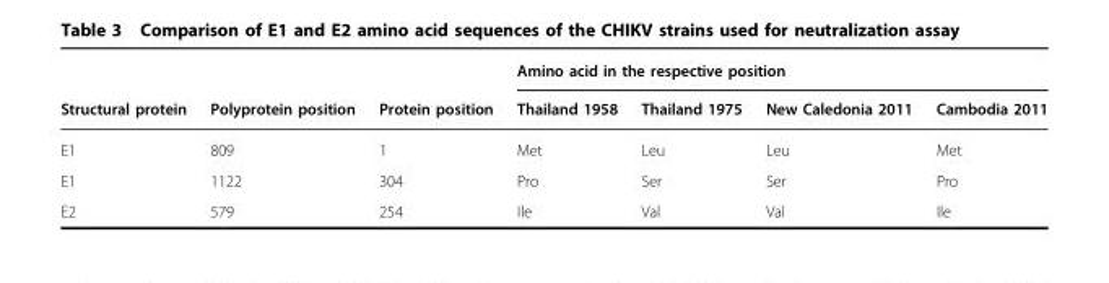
<table><thead><tr><td rowspan="2">Structural protein</td><td rowspan="2">Polyprotein position</td><td rowspan="2">Protein position</td><td colspan="4">Amino acid in the respective position</td></tr><tr><td>Thailand 1958</td><td>Thailand 1975</td><td>New Caledonia 2011</td><td>Cambodia 2011</td></tr></thead><tbody><tr><td>E1</td><td>809</td><td>1</td><td>Met</td><td>Leu</td><td>Leu</td><td>Met</td></tr><tr><td>E1</td><td>1122</td><td>304</td><td>Pro</td><td>Ser</td><td>Ser</td><td>Pro</td></tr><tr><td>E2</td><td>579</td><td>254</td><td>Ile</td><td>Val</td><td>Val</td><td>Ile</td></tr></tbody></table>